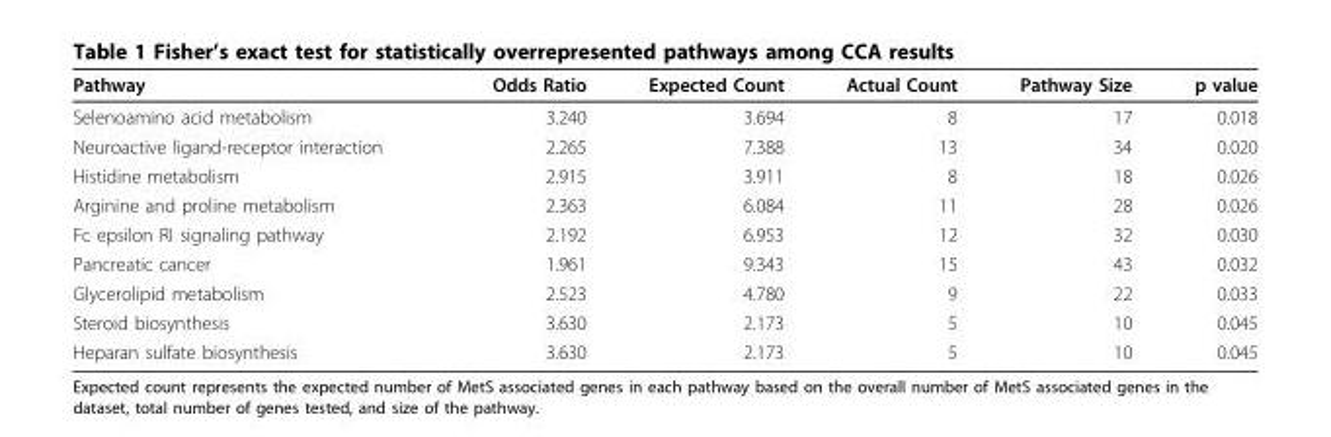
<table><thead><tr><td>Pathway</td><td>Odds Ratio</td><td>Expected Count</td><td>Actual Count</td><td>Pathway Size</td><td>p value</td></tr></thead><tbody><tr><td>Selenoamino acid metabolism</td><td>3.240</td><td>3.694</td><td>8</td><td>17</td><td>0.018</td></tr><tr><td>Neuroactive ligand-receptor interaction</td><td>2.265</td><td>7.388</td><td>13</td><td>34</td><td>0.020</td></tr><tr><td>Histidine metabolism</td><td>2.915</td><td>3.911</td><td>8</td><td>18</td><td>0.026</td></tr><tr><td>Arginine and proline metabolism</td><td>2.363</td><td>6.084</td><td>11</td><td>28</td><td>0.026</td></tr><tr><td>Fc epsilon RI signaling pathway</td><td>2.192</td><td>6.953</td><td>12</td><td>32</td><td>0.030</td></tr><tr><td>Pancreatic cancer</td><td>1.961</td><td>9.343</td><td>15</td><td>43</td><td>0.032</td></tr><tr><td>Glycerolipid metabolism</td><td>2.523</td><td>4.780</td><td>9</td><td>22</td><td>0.033</td></tr><tr><td>Steroid biosynthesis</td><td>3.630</td><td>2.173</td><td>5</td><td>10</td><td>0.045</td></tr><tr><td>Heparan sulfate biosynthesis</td><td>3.630</td><td>2.173</td><td>5</td><td>10</td><td>0.045</td></tr></tbody></table>